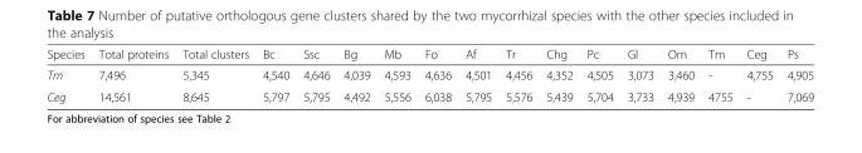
<table><thead><tr><td>Species</td><td>Total proteins</td><td>Total clusters</td><td>Bc</td><td>Ssc</td><td>Bg</td><td>Mb</td><td>Fo</td><td>Af</td><td>Tr</td><td>Chg</td><td>Pc</td><td>Gl</td><td>Om</td><td>Tm</td><td>Ceg</td><td>Ps</td></tr></thead><tbody><tr><td>Tm</td><td>7,496</td><td>5,345</td><td>4,540</td><td>4,646</td><td>4,039</td><td>4,593</td><td>4,636</td><td>4,501</td><td>4,456</td><td>4,352</td><td>4,505</td><td>3,073</td><td>3,460</td><td>-</td><td>4,755</td><td>4,905</td></tr><tr><td>Ceg</td><td>14,561</td><td>8,645</td><td>5,797</td><td>5,795</td><td>4,492</td><td>5,556</td><td>6,038</td><td>5,795</td><td>5,576</td><td>5,439</td><td>5,704</td><td>3,733</td><td>4,939</td><td>4755</td><td>-</td><td>7,069</td></tr></tbody></table>